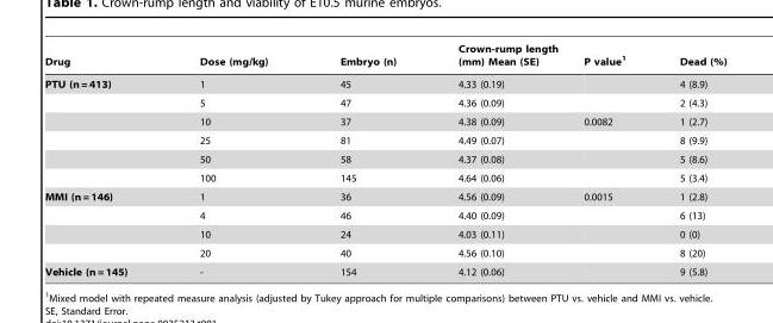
<table><thead><tr><td>Drug</td><td>Dose (mg/kg)</td><td>Embryo (n)</td><td>Crown-rump length (mm) Mean (SE)</td><td>P value<sup>1</sup></td><td>Dead (%)</td></tr></thead><tbody><tr><td rowspan="6">PTU (n = 413)</td><td>1</td><td>45</td><td>4.33 (0.19)</td><td></td><td>4 (8.9)</td></tr><tr><td>5</td><td>47</td><td>4.36 (0.09)</td><td></td><td>2 (4.3)</td></tr><tr><td>10</td><td>37</td><td>4.38 (0.09)</td><td>0.0082</td><td>1 (2.7)</td></tr><tr><td>25</td><td>81</td><td>4.49 (0.07)</td><td></td><td>8 (9.9)</td></tr><tr><td>50</td><td>58</td><td>4.37 (0.08)</td><td></td><td>5 (8.6)</td></tr><tr><td>100</td><td>145</td><td>4.64 (0.06)</td><td></td><td>5 (3.4)</td></tr><tr><td rowspan="4">MMI (n = 146)</td><td>1</td><td>36</td><td>4.56 (0.09)</td><td>0.0015</td><td>1 (2.8)</td></tr><tr><td>4</td><td>46</td><td>4.40 (0.09)</td><td></td><td>6 (13)</td></tr><tr><td>10</td><td>24</td><td>4.03 (0.11)</td><td></td><td>0 (0)</td></tr><tr><td>20</td><td>40</td><td>4.56 (0.10)</td><td></td><td>8 (20)</td></tr><tr><td>Vehicle (n = 145)</td><td>-</td><td>154</td><td>4.12 (0.06)</td><td></td><td>9 (5.8)</td></tr></tbody></table>